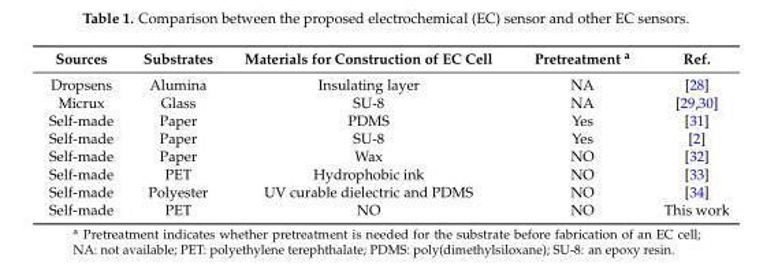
<table><thead><tr><td>Sources</td><td>Substrates</td><td>Materials for Construction of EC Cell</td><td>Pretreatment <sup>a</sup></td><td>Ref.</td></tr></thead><tbody><tr><td>Dropsens</td><td>Alumina</td><td>Insulating layer</td><td>NA</td><td>[28]</td></tr><tr><td>Micrux</td><td>Glass</td><td>SU-8</td><td>NA</td><td>[29,30]</td></tr><tr><td>Self-made</td><td>Paper</td><td>PDMS</td><td>Yes</td><td>[31]</td></tr><tr><td>Self-made</td><td>Paper</td><td>SU-8</td><td>Yes</td><td>[2]</td></tr><tr><td>Self-made</td><td>Paper</td><td>Wax</td><td>NO</td><td>[32]</td></tr><tr><td>Self-made</td><td>PET</td><td>Hydrophobic ink</td><td>NO</td><td>[33]</td></tr><tr><td>Self-made</td><td>Polyester</td><td>UV curable dielectric and PDMS</td><td>NO</td><td>[34]</td></tr><tr><td>Self-made</td><td>PET</td><td>NO</td><td>NO</td><td>This work</td></tr></tbody></table>